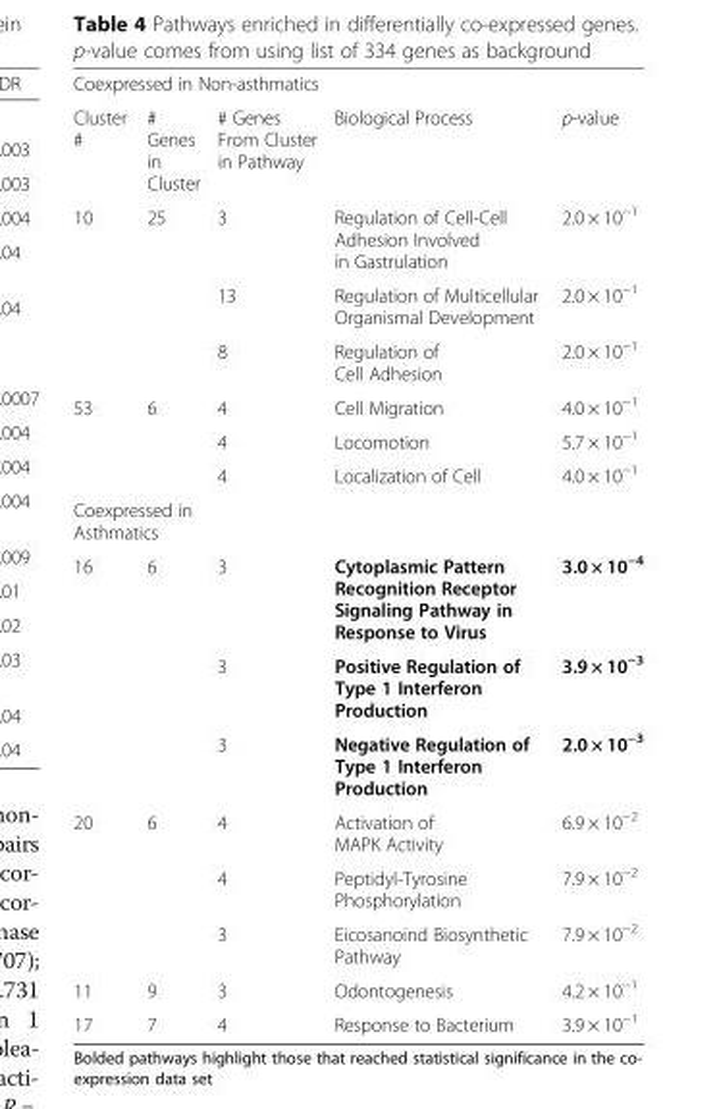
<table><tbody><tr><td colspan="5">Coexpressed in Non-asthmatics</td></tr><tr><td>Cluster #</td><td># Genes in Cluster</td><td># Genes From Cluster in Pathway</td><td>Biological Process</td><td>p-value</td></tr><tr><td rowspan="3">10</td><td rowspan="3">25</td><td>3</td><td>Regulation of Cell-Cell Adhesion Involved in Gastrulation</td><td>2.0 × 10<sup>−1</sup></td></tr><tr><td>13</td><td>Regulation of Multicellular Organismal Development</td><td>2.0 × 10<sup>−1</sup></td></tr><tr><td>8</td><td>Regulation of Cell Adhesion</td><td>2.0 × 10<sup>−1</sup></td></tr><tr><td rowspan="3">53</td><td rowspan="3">6</td><td>4</td><td>Cell Migration</td><td>4.0 × 10<sup>−1</sup></td></tr><tr><td>4</td><td>Locomotion</td><td>5.7 × 10<sup>−1</sup></td></tr><tr><td>4</td><td>Localization of Cell</td><td>4.0 × 10<sup>−1</sup></td></tr><tr><td colspan="5">Coexpressed in Asthmatics</td></tr><tr><td rowspan="3">16</td><td rowspan="3">6</td><td>3</td><td>Cytoplasmic Pattern Recognition Receptor Signaling Pathway in Response to Virus</td><td>3.0 × 10<sup>−4</sup></td></tr><tr><td>3</td><td>Positive Regulation of Type 1 Interferon Production</td><td>3.9 × 10<sup>−3</sup></td></tr><tr><td>3</td><td>Negative Regulation of Type 1 Interferon Production</td><td>2.0 × 10<sup>−3</sup></td></tr><tr><td rowspan="3">20</td><td rowspan="3">6</td><td>4</td><td>Activation of MAPK Activity</td><td>6.9 × 10<sup>−2</sup></td></tr><tr><td>4</td><td>Peptidyl-Tyrosine Phosphorylation</td><td>7.9 × 10<sup>−2</sup></td></tr><tr><td>3</td><td>Eicosanoind Biosynthetic Pathway</td><td>7.9 × 10<sup>−2</sup></td></tr><tr><td>11</td><td>9</td><td>3</td><td>Odontogenesis</td><td>4.2 × 10<sup>−1</sup></td></tr><tr><td>17</td><td>7</td><td>4</td><td>Response to Bacterium</td><td>3.9 × 10<sup>−1</sup></td></tr></tbody></table>